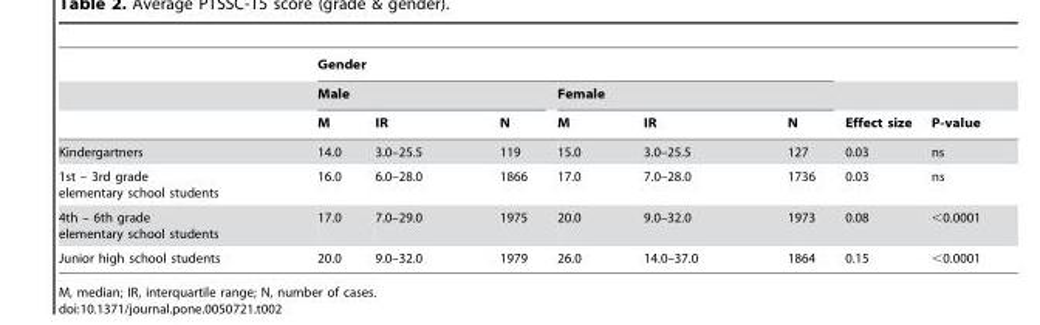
<table><thead><tr><td rowspan="3"></td><td colspan="6">Gender</td><td rowspan="3">Effect size</td><td rowspan="3">P-value</td></tr><tr><td colspan="3">Male</td><td colspan="3">Female</td></tr><tr><td>M</td><td>IR</td><td>N</td><td>M</td><td>IR</td><td>N</td></tr></thead><tbody><tr><td>Kindergartners</td><td>14.0</td><td>3.0–25.5</td><td>119</td><td>15.0</td><td>3.0–25.5</td><td>127</td><td>0.03</td><td>ns</td></tr><tr><td>1st – 3rd grade elementary school students</td><td>16.0</td><td>6.0–28.0</td><td>1866</td><td>17.0</td><td>7.0–28.0</td><td>1736</td><td>0.03</td><td>ns</td></tr><tr><td>4th – 6th grade elementary school students</td><td>17.0</td><td>7.0–29.0</td><td>1975</td><td>20.0</td><td>9.0–32.0</td><td>1973</td><td>0.08</td><td>&lt;0.0001</td></tr><tr><td>Junior high school students</td><td>20.0</td><td>9.0–32.0</td><td>1979</td><td>26.0</td><td>14.0–37.0</td><td>1864</td><td>0.15</td><td>&lt;0.0001</td></tr></tbody></table>